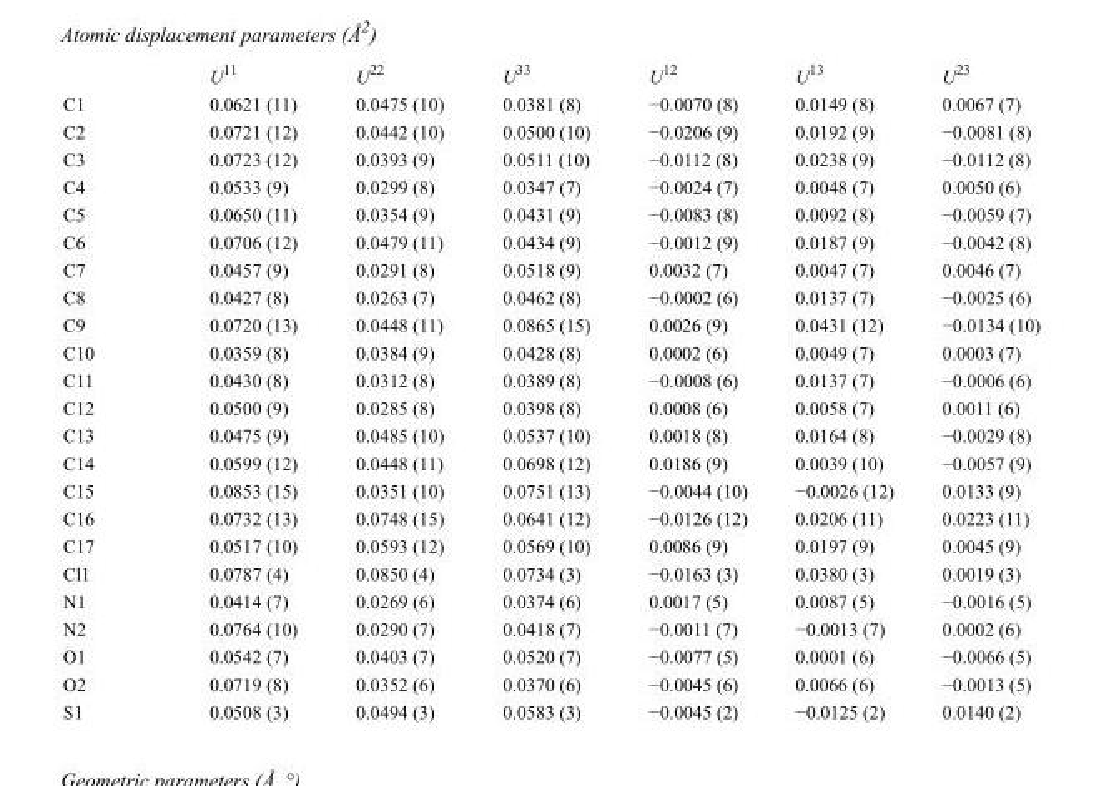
<table><thead><tr><td></td><td>U<sup>11</sup></td><td>U<sup>22</sup></td><td>U<sup>33</sup></td><td>U<sup>12</sup></td><td>U<sup>13</sup></td><td>U<sup>23</sup></td></tr></thead><tbody><tr><td>C1</td><td>0.0621 (11)</td><td>0.0475 (10)</td><td>0.0381 (8)</td><td>−0.0070 (8)</td><td>0.0149 (8)</td><td>0.0067 (7)</td></tr><tr><td>C2</td><td>0.0721 (12)</td><td>0.0442 (10)</td><td>0.0500 (10)</td><td>−0.0206 (9)</td><td>0.0192 (9)</td><td>−0.0081 (8)</td></tr><tr><td>C3</td><td>0.0723 (12)</td><td>0.0393 (9)</td><td>0.0511 (10)</td><td>−0.0112 (8)</td><td>0.0238 (9)</td><td>−0.0112 (8)</td></tr><tr><td>C4</td><td>0.0533 (9)</td><td>0.0299 (8)</td><td>0.0347 (7)</td><td>−0.0024 (7)</td><td>0.0048 (7)</td><td>0.0050 (6)</td></tr><tr><td>C5</td><td>0.0650 (11)</td><td>0.0354 (9)</td><td>0.0431 (9)</td><td>−0.0083 (8)</td><td>0.0092 (8)</td><td>−0.0059 (7)</td></tr><tr><td>C6</td><td>0.0706 (12)</td><td>0.0479 (11)</td><td>0.0434 (9)</td><td>−0.0012 (9)</td><td>0.0187 (9)</td><td>−0.0042 (8)</td></tr><tr><td>C7</td><td>0.0457 (9)</td><td>0.0291 (8)</td><td>0.0518 (9)</td><td>0.0032 (7)</td><td>0.0047 (7)</td><td>0.0046 (7)</td></tr><tr><td>C8</td><td>0.0427 (8)</td><td>0.0263 (7)</td><td>0.0462 (8)</td><td>−0.0002 (6)</td><td>0.0137 (7)</td><td>−0.0025 (6)</td></tr><tr><td>C9</td><td>0.0720 (13)</td><td>0.0448 (11)</td><td>0.0865 (15)</td><td>0.0026 (9)</td><td>0.0431 (12)</td><td>−0.0134 (10)</td></tr><tr><td>C10</td><td>0.0359 (8)</td><td>0.0384 (9)</td><td>0.0428 (8)</td><td>0.0002 (6)</td><td>0.0049 (7)</td><td>0.0003 (7)</td></tr><tr><td>C11</td><td>0.0430 (8)</td><td>0.0312 (8)</td><td>0.0389 (8)</td><td>−0.0008 (6)</td><td>0.0137 (7)</td><td>−0.0006 (6)</td></tr><tr><td>C12</td><td>0.0500 (9)</td><td>0.0285 (8)</td><td>0.0398 (8)</td><td>0.0008 (6)</td><td>0.0058 (7)</td><td>0.0011 (6)</td></tr><tr><td>C13</td><td>0.0475 (9)</td><td>0.0485 (10)</td><td>0.0537 (10)</td><td>0.0018 (8)</td><td>0.0164 (8)</td><td>−0.0029 (8)</td></tr><tr><td>C14</td><td>0.0599 (12)</td><td>0.0448 (11)</td><td>0.0698 (12)</td><td>0.0186 (9)</td><td>0.0039 (10)</td><td>−0.0057 (9)</td></tr><tr><td>C15</td><td>0.0853 (15)</td><td>0.0351 (10)</td><td>0.0751 (13)</td><td>−0.0044 (10)</td><td>−0.0026 (12)</td><td>0.0133 (9)</td></tr><tr><td>C16</td><td>0.0732 (13)</td><td>0.0748 (15)</td><td>0.0641 (12)</td><td>−0.0126 (12)</td><td>0.0206 (11)</td><td>0.0223 (11)</td></tr><tr><td>C17</td><td>0.0517 (10)</td><td>0.0593 (12)</td><td>0.0569 (10)</td><td>0.0086 (9)</td><td>0.0197 (9)</td><td>0.0045 (9)</td></tr><tr><td>Cl1</td><td>0.0787 (4)</td><td>0.0850 (4)</td><td>0.0734 (3)</td><td>−0.0163 (3)</td><td>0.0380 (3)</td><td>0.0019 (3)</td></tr><tr><td>N1</td><td>0.0414 (7)</td><td>0.0269 (6)</td><td>0.0374 (6)</td><td>0.0017 (5)</td><td>0.0087 (5)</td><td>−0.0016 (5)</td></tr><tr><td>N2</td><td>0.0764 (10)</td><td>0.0290 (7)</td><td>0.0418 (7)</td><td>−0.0011 (7)</td><td>−0.0013 (7)</td><td>0.0002 (6)</td></tr><tr><td>O1</td><td>0.0542 (7)</td><td>0.0403 (7)</td><td>0.0520 (7)</td><td>−0.0077 (5)</td><td>0.0001 (6)</td><td>−0.0066 (5)</td></tr><tr><td>O2</td><td>0.0719 (8)</td><td>0.0352 (6)</td><td>0.0370 (6)</td><td>−0.0045 (6)</td><td>0.0066 (6)</td><td>−0.0013 (5)</td></tr><tr><td>S1</td><td>0.0508 (3)</td><td>0.0494 (3)</td><td>0.0583 (3)</td><td>−0.0045 (2)</td><td>−0.0125 (2)</td><td>0.0140 (2)</td></tr></tbody></table>